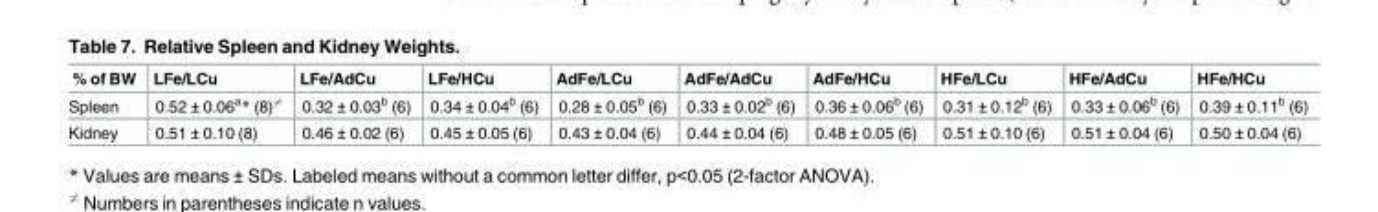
<table><thead><tr><td>% of BW</td><td>LFe/LCu</td><td>LFe/AdCu</td><td>LFe/HCu</td><td>AdFe/LCu</td><td>AdFe/AdCu</td><td>AdFe/HCu</td><td>HFe/LCu</td><td>HFe/AdCu</td><td>HFe/HCu</td></tr></thead><tbody><tr><td>Spleen</td><td>0.52 ± 0.06a* (8)6¼</td><td>0.32 ± 0.03<sup>b</sup> (6)</td><td>0.34 ± 0.04<sup>b</sup> (6)</td><td>0.28 ± 0.05<sup>b</sup> (6)</td><td>0.33 ± 0.02<sup>b</sup> (6)</td><td>0.36 ± 0.06<sup>b</sup> (6)</td><td>0.31 ± 0.12<sup>b</sup> (6)</td><td>0.33 ± 0.06<sup>b</sup> (6)</td><td>0.39 ± 0.11<sup>b</sup> (6)</td></tr><tr><td>Kidney</td><td>0.51 ± 0.10 (8)</td><td>0.46 ± 0.02 (6)</td><td>0.45 ± 0.05 (6)</td><td>0.43 ± 0.04 (6)</td><td>0.44 ± 0.04 (6)</td><td>0.48 ± 0.05 (6)</td><td>0.51 ± 0.10 (6)</td><td>0.51 ± 0.04 (6)</td><td>0.50 ± 0.04 (6)</td></tr></tbody></table>